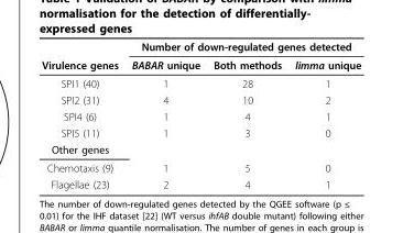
<table><thead><tr><td rowspan="2">Virulence genes</td><td colspan="3">Number of down-regulated genes detected</td></tr><tr><td>BABAR unique</td><td>Both methods</td><td>limma unique</td></tr></thead><tbody><tr><td>SPI1 (40)</td><td>1</td><td>28</td><td>1</td></tr><tr><td>SPI2 (31)</td><td>4</td><td>10</td><td>2</td></tr><tr><td>SPI4 (6)</td><td>1</td><td>4</td><td>1</td></tr><tr><td>SPI5 (11)</td><td>1</td><td>3</td><td>0</td></tr><tr><td colspan="4">Other genes</td></tr><tr><td>Chemotaxis (9)</td><td>1</td><td>5</td><td>0</td></tr><tr><td>Flagellae (23)</td><td>2</td><td>4</td><td>1</td></tr></tbody></table>